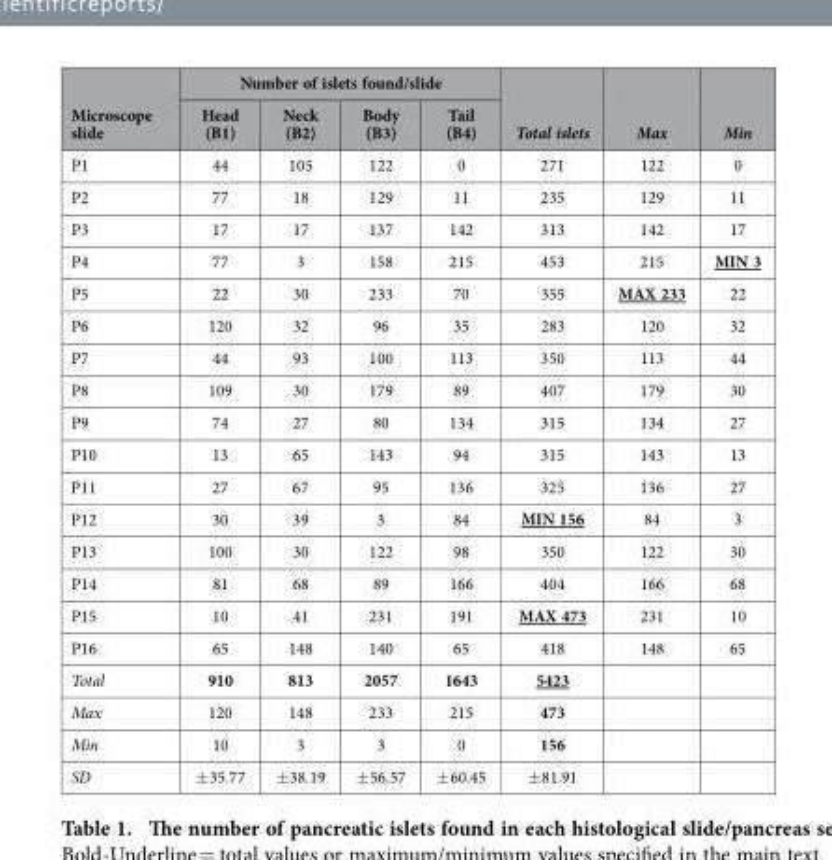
<table><thead><tr><td rowspan="2">Microscope slide</td><td colspan="4">Number of islets found/slide</td><td rowspan="2">Total islets</td><td rowspan="2">Max</td><td rowspan="2">Min</td></tr><tr><td>Head (B1)</td><td>Neck (B2)</td><td>Body (B3)</td><td>Tail (B4)</td></tr></thead><tbody><tr><td>P1</td><td>44</td><td>105</td><td>122</td><td>0</td><td>271</td><td>122</td><td>0</td></tr><tr><td>P2</td><td>77</td><td>18</td><td>129</td><td>11</td><td>235</td><td>129</td><td>11</td></tr><tr><td>P3</td><td>17</td><td>17</td><td>137</td><td>142</td><td>313</td><td>142</td><td>17</td></tr><tr><td>P4</td><td>77</td><td>3</td><td>158</td><td>215</td><td>453</td><td>215</td><td>MIN 3</td></tr><tr><td>P5</td><td>22</td><td>30</td><td>233</td><td>70</td><td>355</td><td>MAX 233</td><td>22</td></tr><tr><td>P6</td><td>120</td><td>32</td><td>96</td><td>35</td><td>283</td><td>120</td><td>32</td></tr><tr><td>P7</td><td>44</td><td>93</td><td>100</td><td>113</td><td>350</td><td>113</td><td>44</td></tr><tr><td>P8</td><td>109</td><td>30</td><td>179</td><td>89</td><td>407</td><td>179</td><td>30</td></tr><tr><td>P9</td><td>74</td><td>27</td><td>80</td><td>134</td><td>315</td><td>134</td><td>27</td></tr><tr><td>P10</td><td>13</td><td>65</td><td>143</td><td>94</td><td>315</td><td>143</td><td>13</td></tr><tr><td>P11</td><td>27</td><td>67</td><td>95</td><td>136</td><td>325</td><td>136</td><td>27</td></tr><tr><td>P12</td><td>30</td><td>39</td><td>3</td><td>84</td><td>MIN 156</td><td>84</td><td>3</td></tr><tr><td>P13</td><td>100</td><td>30</td><td>122</td><td>98</td><td>350</td><td>122</td><td>30</td></tr><tr><td>P14</td><td>81</td><td>68</td><td>89</td><td>166</td><td>404</td><td>166</td><td>68</td></tr><tr><td>P15</td><td>10</td><td>41</td><td>231</td><td>191</td><td>MAX 473</td><td>231</td><td>10</td></tr><tr><td>P16</td><td>65</td><td>148</td><td>140</td><td>65</td><td>418</td><td>148</td><td>65</td></tr><tr><td>Total</td><td>910</td><td>813</td><td>2057</td><td>1643</td><td>5423</td><td></td><td></td></tr><tr><td>Max</td><td>120</td><td>148</td><td>233</td><td>215</td><td>473</td><td></td><td></td></tr><tr><td>Min</td><td>10</td><td>3</td><td>3</td><td>0</td><td>156</td><td></td><td></td></tr><tr><td>SD</td><td>± 35.77</td><td>± 38.19</td><td>± 56.57</td><td>± 60.45</td><td>± 81.91</td><td></td><td></td></tr></tbody></table>